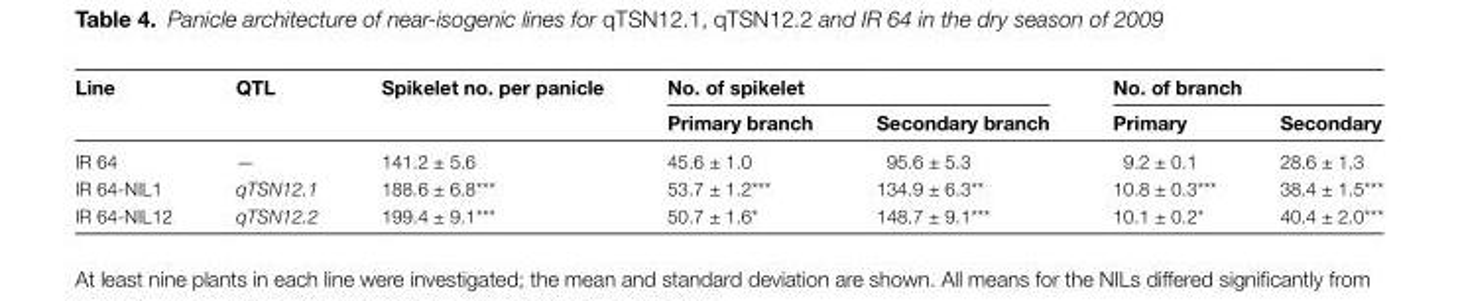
<table><thead><tr><td rowspan="2">Line</td><td rowspan="2">QTL</td><td rowspan="2">Spikelet no. per panicle</td><td colspan="2">No. of spikelet</td><td colspan="2">No. of branch</td></tr><tr><td>Primary branch</td><td>Secondary branch</td><td>Primary</td><td>Secondary</td></tr></thead><tbody><tr><td>IR 64</td><td>—</td><td>141.2 ± 5.6</td><td>45.6 ± 1.0</td><td>95.6 ± 5.3</td><td>9.2 ± 0.1</td><td>28.6 ± 1.3</td></tr><tr><td>IR 64-NIL1</td><td>qTSN12.1</td><td>188.6 ± 6.8***</td><td>53.7 ± 1.2***</td><td>134.9 ± 6.3**</td><td>10.8 ± 0.3***</td><td>38.4 ± 1.5***</td></tr><tr><td>IR 64-NIL12</td><td>qTSN12.2</td><td>199.4 ± 9.1***</td><td>50.7 ± 1.6*</td><td>148.7 ± 9.1***</td><td>10.1 ± 0.2*</td><td>40.4 ± 2.0***</td></tr></tbody></table>